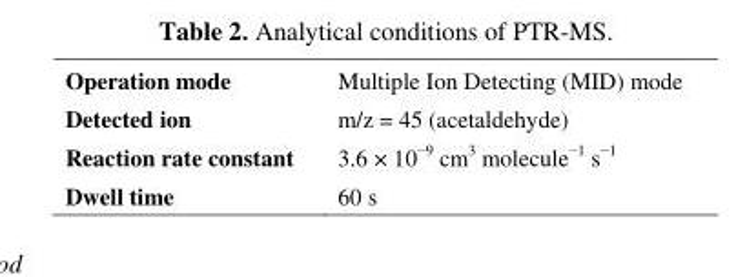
<table><tbody><tr><td>Operation mode</td><td>Multiple Ion Detecting (MID) mode</td></tr><tr><td>Detected ion</td><td>m/z = 45 (acetaldehyde)</td></tr><tr><td>Reaction rate constant</td><td>3.6 × 10<sup>−9</sup> cm<sup>3</sup> molecule<sup>−1</sup> s<sup>−1</sup></td></tr><tr><td>Dwell time</td><td>60 s</td></tr></tbody></table>